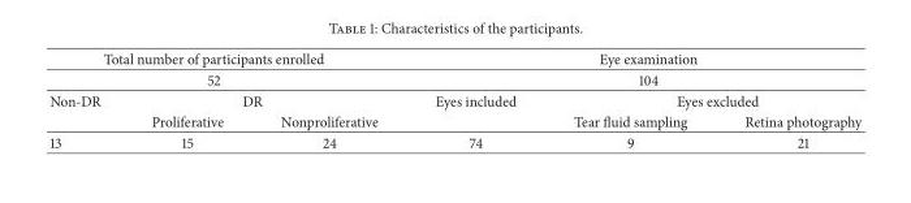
<table><thead><tr><td rowspan="2" colspan="3">Total number of participants enrolled 52</td><td rowspan="2" colspan="3">Eye examination 104</td></tr><tr></tr><tr><td rowspan="2">Non-DR</td><td colspan="2">DR</td><td rowspan="2">Eyes included</td><td colspan="2">Eyes excluded</td></tr><tr><td>Proliferative</td><td>Nonproliferative</td><td>Tear fluid sampling</td><td>Retina photography</td></tr></thead><tbody><tr><td>13</td><td>15</td><td>24</td><td>74</td><td>9</td><td>21</td></tr></tbody></table>